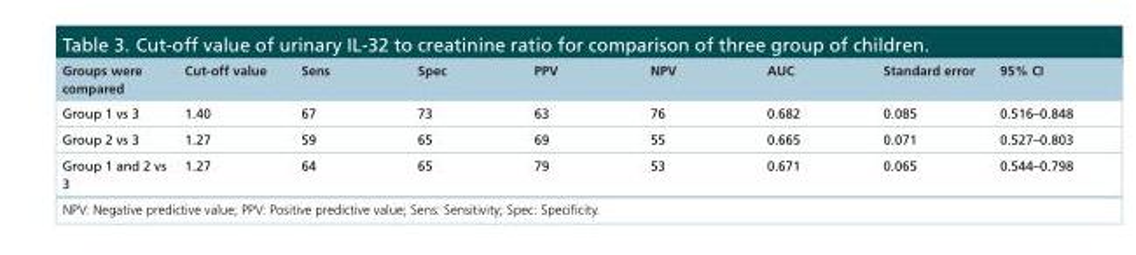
<table><thead><tr><td>Groups were compared</td><td>Cut-off value</td><td>Sens</td><td>Spec</td><td>PPV</td><td>NPV</td><td>AUC</td><td>Standard error</td><td>95% CI</td></tr></thead><tbody><tr><td>Group 1 vs 3</td><td>1.40</td><td>67</td><td>73</td><td>63</td><td>76</td><td>0.682</td><td>0.085</td><td>0.516–0.848</td></tr><tr><td>Group 2 vs 3</td><td>1.27</td><td>59</td><td>65</td><td>69</td><td>55</td><td>0.665</td><td>0.071</td><td>0.527–0.803</td></tr><tr><td>Group 1 and 2 vs 3</td><td>1.27</td><td>64</td><td>65</td><td>79</td><td>53</td><td>0.671</td><td>0.065</td><td>0.544–0.798</td></tr></tbody></table>